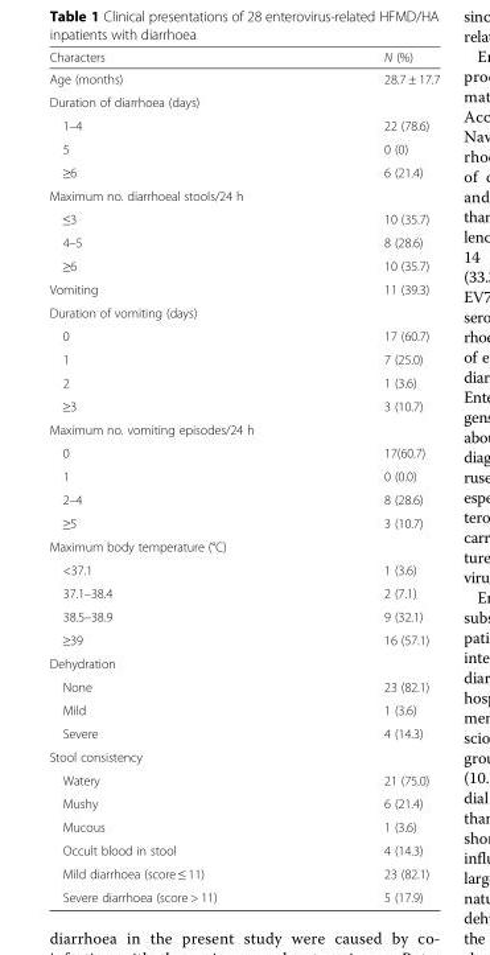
<table><thead><tr><td>Characters</td><td>N (%)</td></tr></thead><tbody><tr><td>Age (months)</td><td>28.7 ± 17.7</td></tr><tr><td colspan="2">Duration of diarrhoea (days)</td></tr><tr><td>1–4</td><td>22 (78.6)</td></tr><tr><td>5</td><td>0 (0)</td></tr><tr><td>≥6</td><td>6 (21.4)</td></tr><tr><td colspan="2">Maximum no. diarrhoeal stools/24 h</td></tr><tr><td>≤3</td><td>10 (35.7)</td></tr><tr><td>4–5</td><td>8 (28.6)</td></tr><tr><td>≥6</td><td>10 (35.7)</td></tr><tr><td>Vomiting</td><td>11 (39.3)</td></tr><tr><td colspan="2">Duration of vomiting (days)</td></tr><tr><td>0</td><td>17 (60.7)</td></tr><tr><td>1</td><td>7 (25.0)</td></tr><tr><td>2</td><td>1 (3.6)</td></tr><tr><td>≥3</td><td>3 (10.7)</td></tr><tr><td colspan="2">Maximum no. vomiting episodes/24 h</td></tr><tr><td>0</td><td>17(60.7)</td></tr><tr><td>1</td><td>0 (0.0)</td></tr><tr><td>2–4</td><td>8 (28.6)</td></tr><tr><td>≥5</td><td>3 (10.7)</td></tr><tr><td colspan="2">Maximum body temperature (°C)</td></tr><tr><td>&lt;37.1</td><td>1 (3.6)</td></tr><tr><td>37.1–38.4</td><td>2 (7.1)</td></tr><tr><td>38.5–38.9</td><td>9 (32.1)</td></tr><tr><td>≥39</td><td>16 (57.1)</td></tr><tr><td colspan="2">Dehydration</td></tr><tr><td>None</td><td>23 (82.1)</td></tr><tr><td>Mild</td><td>1 (3.6)</td></tr><tr><td>Severe</td><td>4 (14.3)</td></tr><tr><td colspan="2">Stool consistency</td></tr><tr><td>Watery</td><td>21 (75.0)</td></tr><tr><td>Mushy</td><td>6 (21.4)</td></tr><tr><td>Mucous</td><td>1 (3.6)</td></tr><tr><td>Occult blood in stool</td><td>4 (14.3)</td></tr><tr><td>Mild diarrhoea (score ≤ 11)</td><td>23 (82.1)</td></tr><tr><td>Severe diarrhoea (score &gt; 11)</td><td>5 (17.9)</td></tr></tbody></table>